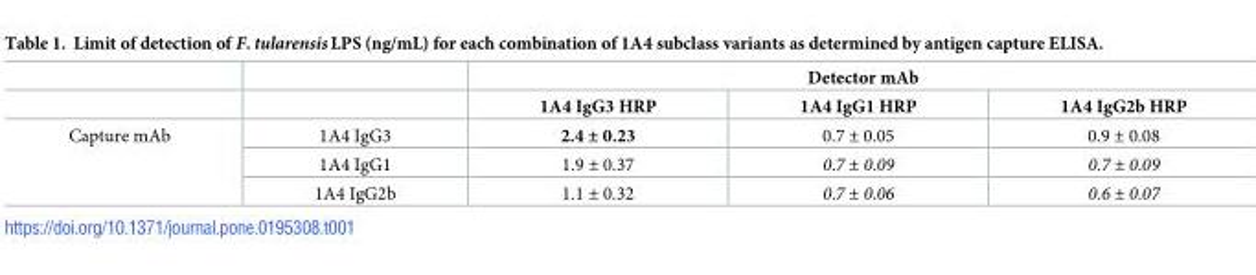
<table><thead><tr><td rowspan="2"></td><td rowspan="2"></td><td colspan="3">Detector mAb</td></tr><tr><td>1A4 IgG3 HRP</td><td>1A4 IgG1 HRP</td><td>1A4 IgG2b HRP</td></tr></thead><tbody><tr><td rowspan="3">Capture mAb</td><td>1A4 IgG3</td><td>2.4 ± 0.23</td><td>0.7 ± 0.05</td><td>0.9 ± 0.08</td></tr><tr><td>1A4 IgG1</td><td>1.9 ± 0.37</td><td>0.7 ± 0.09</td><td>0.7 ± 0.09</td></tr><tr><td>1A4 IgG2b</td><td>1.1 ± 0.32</td><td>0.7 ± 0.06</td><td>0.6 ± 0.07</td></tr></tbody></table>